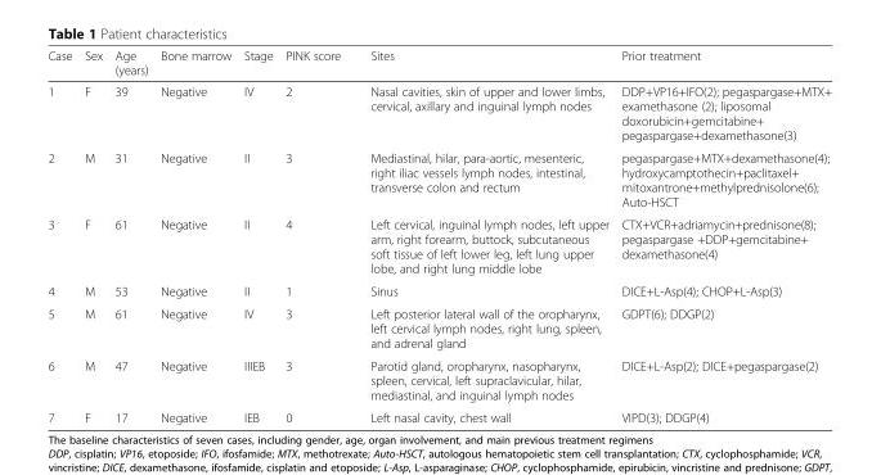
<table><thead><tr><td>Case</td><td>Sex</td><td>Age (years)</td><td>Bone marrow</td><td>Stage</td><td>PINK score</td><td>Sites</td><td>Prior treatment</td></tr></thead><tbody><tr><td>1</td><td>F</td><td>39</td><td>Negative</td><td>IV</td><td>2</td><td>Nasal cavities, skin of upper and lower limbs, cervical, axillary and inguinal lymph nodes</td><td>DDP+VP16+IFO(2); pegaspargase+MTX+ examethasone (2); liposomal doxorubicin+gemcitabine+ pegaspargase+dexamethasone(3)</td></tr><tr><td>2</td><td>M</td><td>31</td><td>Negative</td><td>II</td><td>3</td><td>Mediastinal, hilar, para-aortic, mesenteric, right iliac vessels lymph nodes, intestinal, transverse colon and rectum</td><td>pegaspargase+MTX+dexamethasone(4); hydroxycamptothecin+paclitaxel+ mitoxantrone+methylprednisolone(6); Auto-HSCT</td></tr><tr><td>3</td><td>F</td><td>61</td><td>Negative</td><td>II</td><td>4</td><td>Left cervical, inguinal lymph nodes, left upper arm, right forearm, buttock, subcutaneous soft tissue of left lower leg, left lung upper lobe, and right lung middle lobe</td><td>CTX+VCR+adriamycin+prednisone(8); pegaspargase +DDP+gemcitabine+ dexamethasone(4)</td></tr><tr><td>4</td><td>M</td><td>53</td><td>Negative</td><td>II</td><td>1</td><td>Sinus</td><td>DICE+L-Asp(4); CHOP+L-Asp(3)</td></tr><tr><td>5</td><td>M</td><td>61</td><td>Negative</td><td>IV</td><td>3</td><td>Left posterior lateral wall of the oropharynx, left cervical lymph nodes, right lung, spleen, and adrenal gland</td><td>GDPT(6); DDGP(2)</td></tr><tr><td>6</td><td>M</td><td>47</td><td>Negative</td><td>IIIEB</td><td>3</td><td>Parotid gland, oropharynx, nasopharynx, spleen, cervical, left supraclavicular, hilar, mediastinal, and inguinal lymph nodes</td><td>DICE+L-Asp(2); DICE+pegaspargase(2)</td></tr><tr><td>7</td><td>F</td><td>17</td><td>Negative</td><td>IEB</td><td>0</td><td>Left nasal cavity, chest wall</td><td>VIPD(3); DDGP(4)</td></tr></tbody></table>